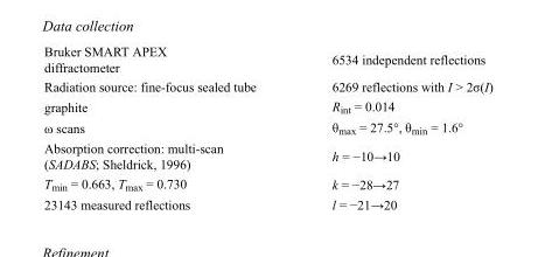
<table><tbody><tr><td>Bruker SMART APEX diffractometer</td><td>6534 independent reflections</td></tr><tr><td>Radiation source: fine-focus sealed tube</td><td>6269 reflections with I &gt; 2σ(I)</td></tr><tr><td>graphite</td><td>R<sub>int</sub> = 0.014</td></tr><tr><td>ω scans</td><td>θ<sub>max</sub> = 27.5°, θ<sub>min</sub> = 1.6°</td></tr><tr><td>Absorption correction: multi-scan (SADABS; Sheldrick, 1996)</td><td>h = −10→10</td></tr><tr><td>T<sub>min</sub> = 0.663, T<sub>max</sub> = 0.730</td><td>k = −28→27</td></tr><tr><td>23143 measured reflections</td><td>l = −21→20</td></tr></tbody></table>